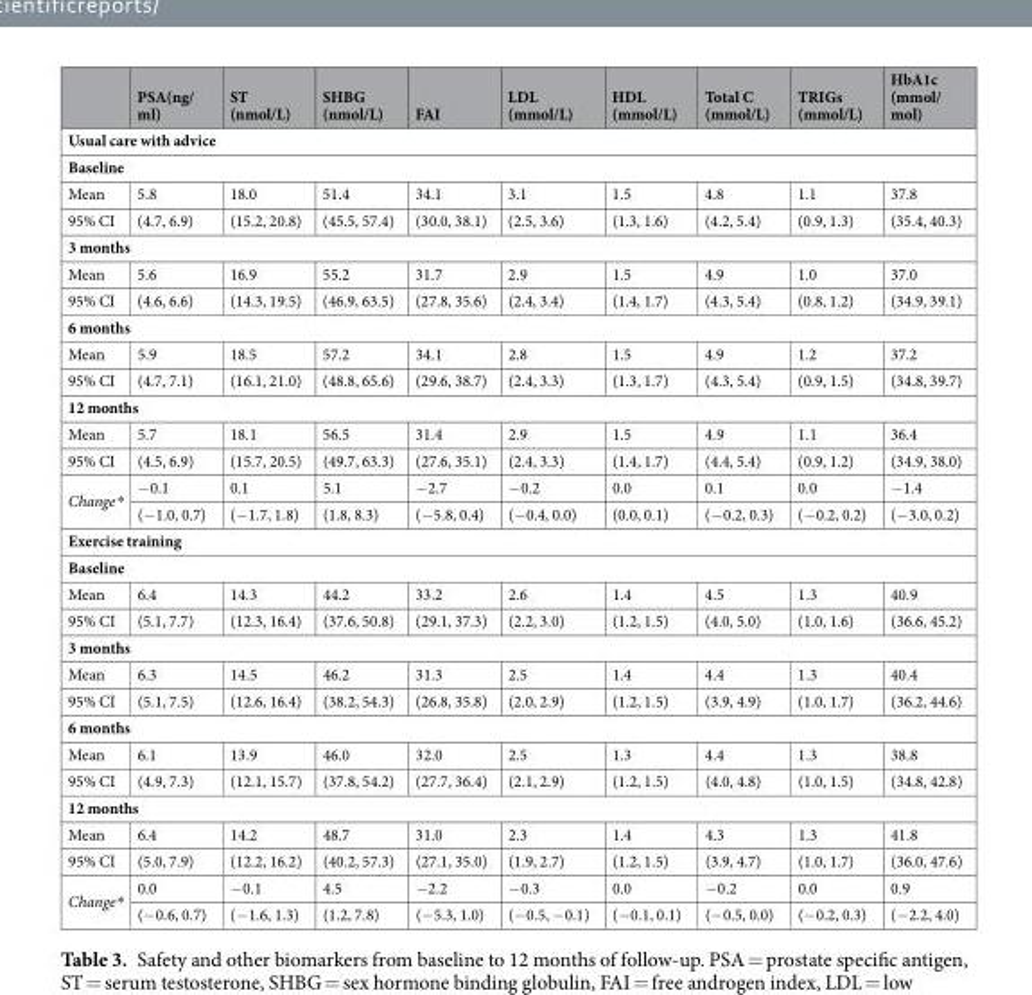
<table><thead><tr><td></td><td>PSA(ng/ ml)</td><td>ST (nmol/L)</td><td>SHBG (nmol/L)</td><td>FAI</td><td>LDL (mmol/L)</td><td>HDL (mmol/L)</td><td>Total C (mmol/L)</td><td>TRIGs (mmol/L)</td><td>HbA1c (mmol/ mol)</td></tr></thead><tbody><tr><td colspan="10">Usual care with advice</td></tr><tr><td colspan="10">Baseline</td></tr><tr><td>Mean</td><td>5.8</td><td>18.0</td><td>51.4</td><td>34.1</td><td>3.1</td><td>1.5</td><td>4.8</td><td>1.1</td><td>37.8</td></tr><tr><td>95% CI</td><td>(4.7, 6.9)</td><td>(15.2, 20.8)</td><td>(45.5, 57.4)</td><td>(30.0, 38.1)</td><td>(2.5, 3.6)</td><td>(1.3, 1.6)</td><td>(4.2, 5.4)</td><td>(0.9, 1.3)</td><td>(35.4, 40.3)</td></tr><tr><td colspan="10">3 months</td></tr><tr><td>Mean</td><td>5.6</td><td>16.9</td><td>55.2</td><td>31.7</td><td>2.9</td><td>1.5</td><td>4.9</td><td>1.0</td><td>37.0</td></tr><tr><td>95% CI</td><td>(4.6, 6.6)</td><td>(14.3, 19.5)</td><td>(46.9, 63.5)</td><td>(27.8, 35.6)</td><td>(2.4, 3.4)</td><td>(1.4, 1.7)</td><td>(4.3, 5.4)</td><td>(0.8, 1.2)</td><td>(34.9, 39.1)</td></tr><tr><td colspan="10">6 months</td></tr><tr><td>Mean</td><td>5.9</td><td>18.5</td><td>57.2</td><td>34.1</td><td>2.8</td><td>1.5</td><td>4.9</td><td>1.2</td><td>37.2</td></tr><tr><td>95% CI</td><td>(4.7, 7.1)</td><td>(16.1, 21.0)</td><td>(48.8, 65.6)</td><td>(29.6, 38.7)</td><td>(2.4, 3.3)</td><td>(1.3, 1.7)</td><td>(4.3, 5.4)</td><td>(0.9, 1.5)</td><td>(34.8, 39.7)</td></tr><tr><td colspan="10">12 months</td></tr><tr><td>Mean</td><td>5.7</td><td>18.1</td><td>56.5</td><td>31.4</td><td>2.9</td><td>1.5</td><td>4.9</td><td>1.1</td><td>36.4</td></tr><tr><td>95% CI</td><td>(4.5, 6.9)</td><td>(15.7, 20.5)</td><td>(49.7, 63.3)</td><td>(27.6, 35.1)</td><td>(2.4, 3.3)</td><td>(1.4, 1.7)</td><td>(4.4, 5.4)</td><td>(0.9, 1.2)</td><td>(34.9, 38.0)</td></tr><tr><td rowspan="2">Change*</td><td>−0.1</td><td>0.1</td><td>5.1</td><td>−2.7</td><td>−0.2</td><td>0.0</td><td>0.1</td><td>0.0</td><td>−1.4</td></tr><tr><td>(−1.0, 0.7)</td><td>(−1.7, 1.8)</td><td>(1.8, 8.3)</td><td>(−5.8, 0.4)</td><td>(−0.4, 0.0)</td><td>(0.0, 0.1)</td><td>(−0.2, 0.3)</td><td>(−0.2, 0.2)</td><td>(−3.0, 0.2)</td></tr><tr><td colspan="10">Exercise training</td></tr><tr><td colspan="10">Baseline</td></tr><tr><td>Mean</td><td>6.4</td><td>14.3</td><td>44.2</td><td>33.2</td><td>2.6</td><td>1.4</td><td>4.5</td><td>1.3</td><td>40.9</td></tr><tr><td>95% CI</td><td>(5.1, 7.7)</td><td>(12.3, 16.4)</td><td>(37.6, 50.8)</td><td>(29.1, 37.3)</td><td>(2.2, 3.0)</td><td>(1.2, 1.5)</td><td>(4.0, 5.0)</td><td>(1.0, 1.6)</td><td>(36.6, 45.2)</td></tr><tr><td colspan="10">3 months</td></tr><tr><td>Mean</td><td>6.3</td><td>14.5</td><td>46.2</td><td>31.3</td><td>2.5</td><td>1.4</td><td>4.4</td><td>1.3</td><td>40.4</td></tr><tr><td>95% CI</td><td>(5.1, 7.5)</td><td>(12.6, 16.4)</td><td>(38.2, 54.3)</td><td>(26.8, 35.8)</td><td>(2.0, 2.9)</td><td>(1.2, 1.5)</td><td>(3.9, 4.9)</td><td>(1.0, 1.7)</td><td>(36.2, 44.6)</td></tr><tr><td colspan="10">6 months</td></tr><tr><td>Mean</td><td>6.1</td><td>13.9</td><td>46.0</td><td>32.0</td><td>2.5</td><td>1.3</td><td>4.4</td><td>1.3</td><td>38.8</td></tr><tr><td>95% CI</td><td>(4.9, 7.3)</td><td>(12.1, 15.7)</td><td>(37.8, 54.2)</td><td>(27.7, 36.4)</td><td>(2.1, 2.9)</td><td>(1.2, 1.5)</td><td>(4.0, 4.8)</td><td>(1.0, 1.5)</td><td>(34.8, 42.8)</td></tr><tr><td colspan="10">12 months</td></tr><tr><td>Mean</td><td>6.4</td><td>14.2</td><td>48.7</td><td>31.0</td><td>2.3</td><td>1.4</td><td>4.3</td><td>1.3</td><td>41.8</td></tr><tr><td>95% CI</td><td>(5.0, 7.9)</td><td>(12.2, 16.2)</td><td>(40.2, 57.3)</td><td>(27.1, 35.0)</td><td>(1.9, 2.7)</td><td>(1.2, 1.5)</td><td>(3.9, 4.7)</td><td>(1.0, 1.7)</td><td>(36.0, 47.6)</td></tr><tr><td rowspan="2">Change*</td><td>0.0</td><td>−0.1</td><td>4.5</td><td>−2.2</td><td>−0.3</td><td>0.0</td><td>−0.2</td><td>0.0</td><td>0.9</td></tr><tr><td>(−0.6, 0.7)</td><td>(−1.6, 1.3)</td><td>(1.2, 7.8)</td><td>(−5.3, 1.0)</td><td>(−0.5, −0.1)</td><td>(−0.1, 0.1)</td><td>(−0.5, 0.0)</td><td>(−0.2, 0.3)</td><td>(−2.2, 4.0)</td></tr></tbody></table>